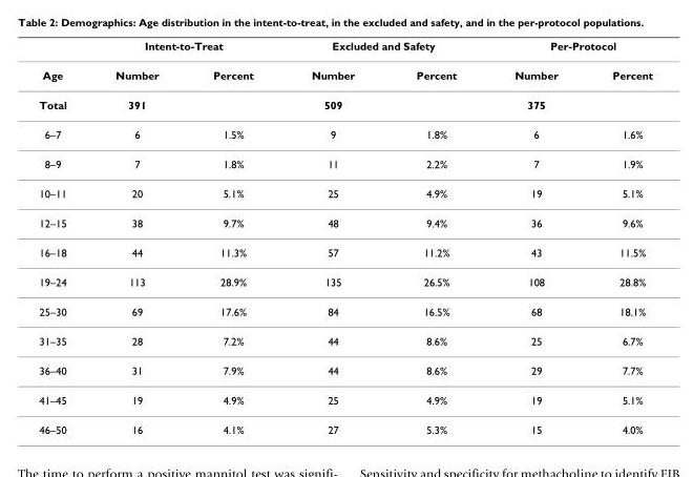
<table><thead><tr><td rowspan="2">Age</td><td colspan="2">Intent-to-Treat</td><td colspan="2">Excluded and Safety</td><td colspan="2">Per-Protocol</td></tr><tr><td>Number</td><td>Percent</td><td>Number</td><td>Percent</td><td>Number</td><td>Percent</td></tr></thead><tbody><tr><td>Total</td><td>391</td><td></td><td>509</td><td></td><td>375</td><td></td></tr><tr><td>6–7</td><td>6</td><td>1.5%</td><td>9</td><td>1.8%</td><td>6</td><td>1.6%</td></tr><tr><td>8–9</td><td>7</td><td>1.8%</td><td>11</td><td>2.2%</td><td>7</td><td>1.9%</td></tr><tr><td>10–11</td><td>20</td><td>5.1%</td><td>25</td><td>4.9%</td><td>19</td><td>5.1%</td></tr><tr><td>12–15</td><td>38</td><td>9.7%</td><td>48</td><td>9.4%</td><td>36</td><td>9.6%</td></tr><tr><td>16–18</td><td>44</td><td>11.3%</td><td>57</td><td>11.2%</td><td>43</td><td>11.5%</td></tr><tr><td>19–24</td><td>113</td><td>28.9%</td><td>135</td><td>26.5%</td><td>108</td><td>28.8%</td></tr><tr><td>25–30</td><td>69</td><td>17.6%</td><td>84</td><td>16.5%</td><td>68</td><td>18.1%</td></tr><tr><td>31–35</td><td>28</td><td>7.2%</td><td>44</td><td>8.6%</td><td>25</td><td>6.7%</td></tr><tr><td>36–40</td><td>31</td><td>7.9%</td><td>44</td><td>8.6%</td><td>29</td><td>7.7%</td></tr><tr><td>41–45</td><td>19</td><td>4.9%</td><td>25</td><td>4.9%</td><td>19</td><td>5.1%</td></tr><tr><td>46–50</td><td>16</td><td>4.1%</td><td>27</td><td>5.3%</td><td>15</td><td>4.0%</td></tr></tbody></table>